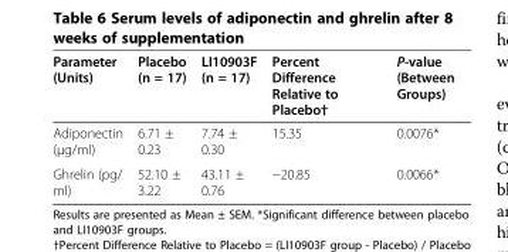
<table><thead><tr><td>Parameter (Units)</td><td>Placebo (n = 17)</td><td>LI10903F (n = 17)</td><td>Percent Difference Relative to Placebo†</td><td>P-value (Between Groups)</td></tr></thead><tbody><tr><td>Adiponectin (μg/ml)</td><td>6.71 ± 0.23</td><td>7.74 ± 0.30</td><td>15.35</td><td>0.0076*</td></tr><tr><td>Ghrelin (pg/ ml)</td><td>52.10 ± 3.22</td><td>43.11 ± 0.76</td><td>−20.85</td><td>0.0066*</td></tr></tbody></table>